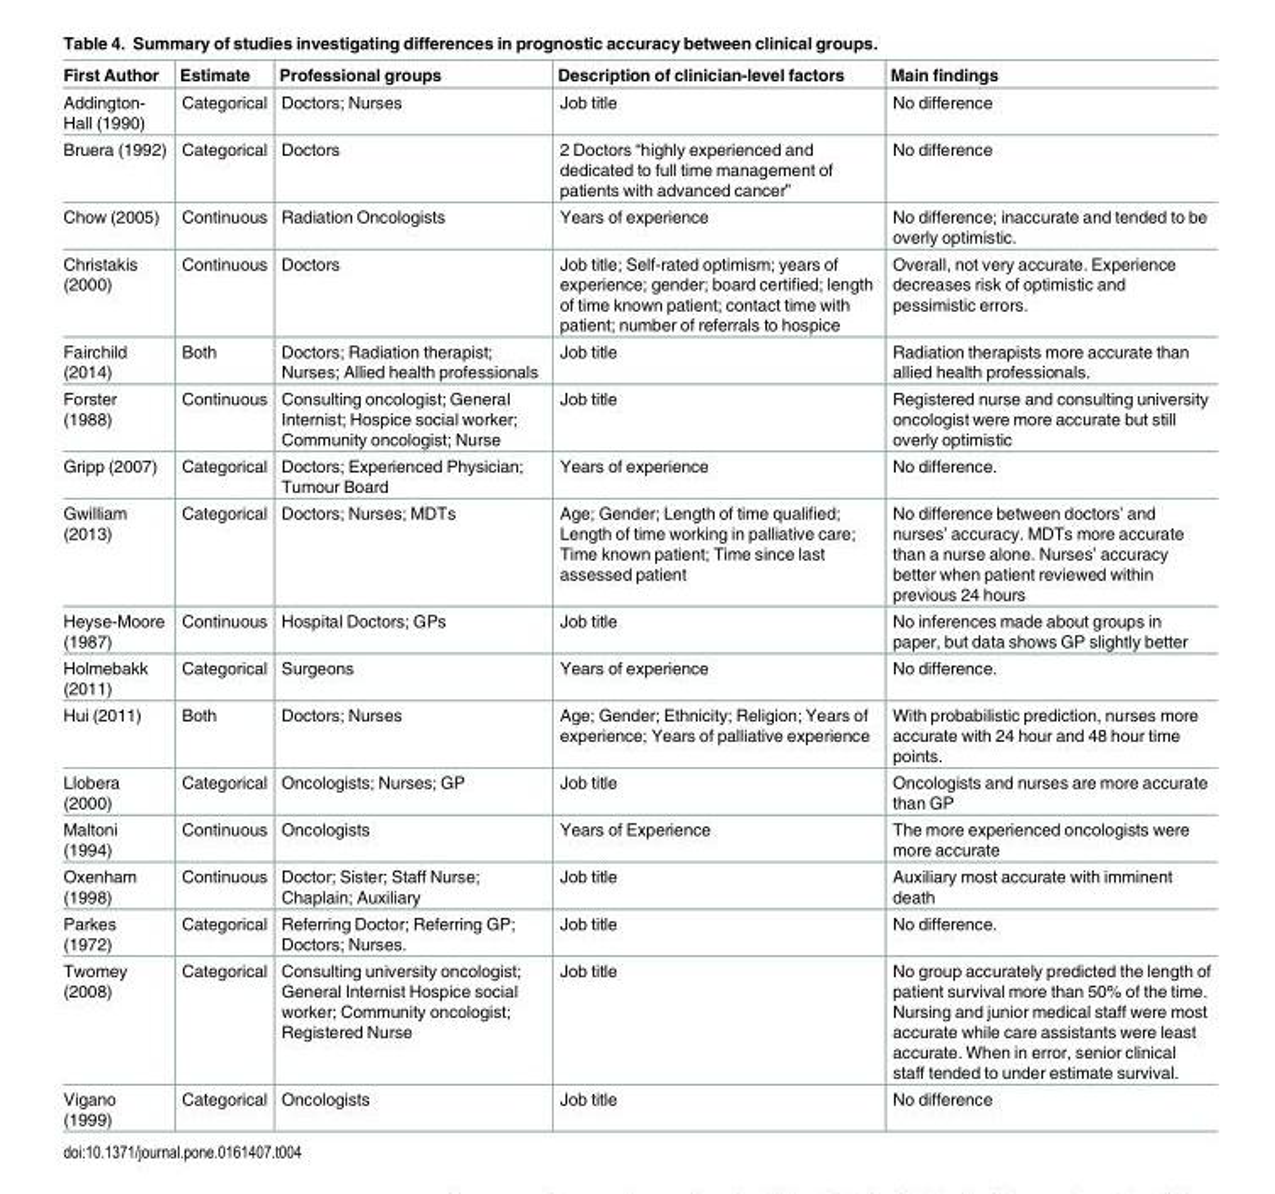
<table><thead><tr><td>First Author</td><td>Estimate</td><td>Professional groups</td><td>Description of clinician-level factors</td><td>Main findings</td></tr></thead><tbody><tr><td>Addington- Hall (1990)</td><td>Categorical</td><td>Doctors; Nurses</td><td>Job title</td><td>No difference</td></tr><tr><td>Bruera (1992)</td><td>Categorical</td><td>Doctors</td><td>2 Doctors “highly experienced and dedicated to full time management of patients with advanced cancer”</td><td>No difference</td></tr><tr><td>Chow (2005)</td><td>Continuous</td><td>Radiation Oncologists</td><td>Years of experience</td><td>No difference; inaccurate and tended to be overly optimistic.</td></tr><tr><td>Christakis (2000)</td><td>Continuous</td><td>Doctors</td><td>Job title; Self-rated optimism; years of experience; gender; board certified; length of time known patient; contact time with patient; number of referrals to hospice</td><td>Overall, not very accurate. Experience decreases risk of optimistic and pessimistic errors.</td></tr><tr><td>Fairchild (2014)</td><td>Both</td><td>Doctors; Radiation therapist; Nurses; Allied health professionals</td><td>Job title</td><td>Radiation therapists more accurate than allied health professionals.</td></tr><tr><td>Forster (1988)</td><td>Continuous</td><td>Consulting oncologist; General Internist; Hospice social worker; Community oncologist; Nurse</td><td>Job title</td><td>Registered nurse and consulting university oncologist were more accurate but still overly optimistic</td></tr><tr><td>Gripp (2007)</td><td>Categorical</td><td>Doctors; Experienced Physician; Tumour Board</td><td>Years of experience</td><td>No difference.</td></tr><tr><td>Gwilliam (2013)</td><td>Categorical</td><td>Doctors; Nurses; MDTs</td><td>Age; Gender; Length of time qualified; Length of time working in palliative care; Time known patient; Time since last assessed patient</td><td>No difference between doctors’ and nurses’ accuracy. MDTs more accurate than a nurse alone. Nurses’ accuracy better when patient reviewed within previous 24 hours</td></tr><tr><td>Heyse-Moore (1987)</td><td>Continuous</td><td>Hospital Doctors; GPs</td><td>Job title</td><td>No inferences made about groups in paper, but data shows GP slightly better</td></tr><tr><td>Holmebakk (2011)</td><td>Categorical</td><td>Surgeons</td><td>Years of experience</td><td>No difference.</td></tr><tr><td>Hui (2011)</td><td>Both</td><td>Doctors; Nurses</td><td>Age; Gender; Ethnicity; Religion; Years of experience; Years of palliative experience</td><td>With probabilistic prediction, nurses more accurate with 24 hour and 48 hour time points.</td></tr><tr><td>Llobera (2000)</td><td>Categorical</td><td>Oncologists; Nurses; GP</td><td>Job title</td><td>Oncologists and nurses are more accurate than GP</td></tr><tr><td>Maltoni (1994)</td><td>Continuous</td><td>Oncologists</td><td>Years of Experience</td><td>The more experienced oncologists were more accurate</td></tr><tr><td>Oxenham (1998)</td><td>Continuous</td><td>Doctor; Sister; Staff Nurse; Chaplain; Auxiliary</td><td>Job title</td><td>Auxiliary most accurate with imminent death</td></tr><tr><td>Parkes (1972)</td><td>Categorical</td><td>Referring Doctor; Referring GP; Doctors; Nurses.</td><td>Job title</td><td>No difference.</td></tr><tr><td>Twomey (2008)</td><td>Categorical</td><td>Consulting university oncologist; General Internist Hospice social worker; Community oncologist; Registered Nurse</td><td>Job title</td><td>No group accurately predicted the length of patient survival more than 50% of the time. Nursing and junior medical staff were most accurate while care assistants were least accurate. When in error, senior clinical staff tended to under estimate survival.</td></tr><tr><td>Vigano (1999)</td><td>Categorical</td><td>Oncologists</td><td>Job title</td><td>No difference</td></tr></tbody></table>